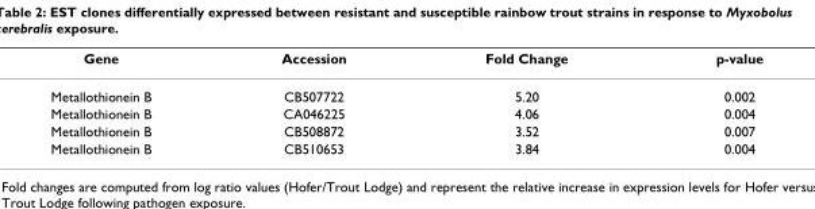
<table><thead><tr><td>Gene</td><td>Accession</td><td>Fold Change</td><td>p-value</td></tr></thead><tbody><tr><td>Metallothionein B</td><td>CB507722</td><td>5.20</td><td>0.002</td></tr><tr><td>Metallothionein B</td><td>CA046225</td><td>4.06</td><td>0.004</td></tr><tr><td>Metallothionein B</td><td>CB508872</td><td>3.52</td><td>0.007</td></tr><tr><td>Metallothionein B</td><td>CB510653</td><td>3.84</td><td>0.004</td></tr></tbody></table>